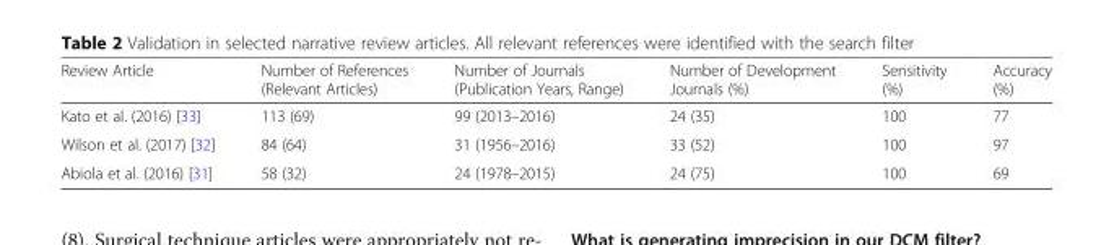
<table><thead><tr><td>Review Article</td><td>Number of References (Relevant Articles)</td><td>Number of Journals (Publication Years, Range)</td><td>Number of Development Journals (%)</td><td>Sensitivity (%)</td><td>Accuracy (%)</td></tr></thead><tbody><tr><td>Kato et al. (2016) [33]</td><td>113 (69)</td><td>99 (2013–2016)</td><td>24 (35)</td><td>100</td><td>77</td></tr><tr><td>Wilson et al. (2017) [32]</td><td>84 (64)</td><td>31 (1956–2016)</td><td>33 (52)</td><td>100</td><td>97</td></tr><tr><td>Abiola et al. (2016) [31]</td><td>58 (32)</td><td>24 (1978–2015)</td><td>24 (75)</td><td>100</td><td>69</td></tr></tbody></table>